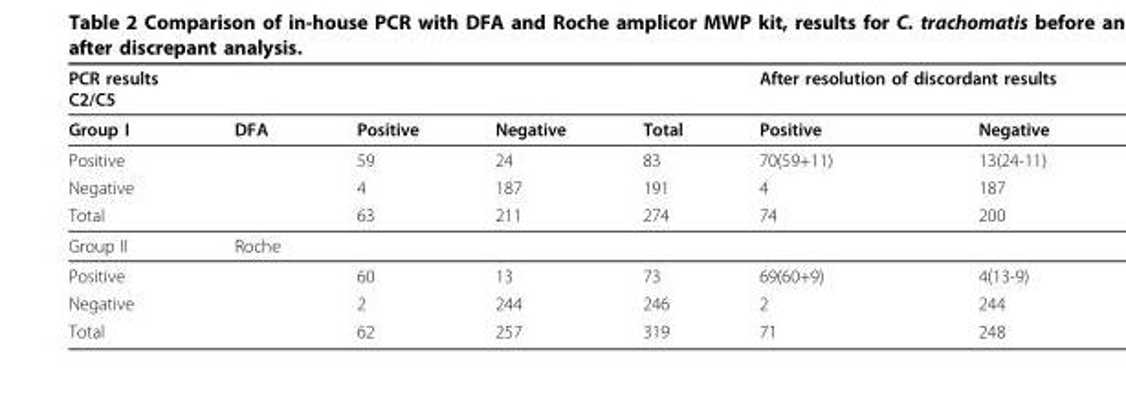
<table><thead><tr><td rowspan="2">PCR results C2/C5 Group I</td><td rowspan="2">DFA</td><td rowspan="2">Positive</td><td rowspan="2">Negative</td><td rowspan="2">Total</td><td colspan="2">After resolution of discordant results</td></tr><tr><td>Positive</td><td>Negative</td></tr></thead><tbody><tr><td>Positive</td><td></td><td>59</td><td>24</td><td>83</td><td>70(59+11)</td><td>13(24-11)</td></tr><tr><td>Negative</td><td></td><td>4</td><td>187</td><td>191</td><td>4</td><td>187</td></tr><tr><td>Total</td><td></td><td>63</td><td>211</td><td>274</td><td>74</td><td>200</td></tr><tr><td>Group II</td><td>Roche</td><td></td><td></td><td></td><td></td><td></td></tr><tr><td>Positive</td><td></td><td>60</td><td>13</td><td>73</td><td>69(60+9)</td><td>4(13-9)</td></tr><tr><td>Negative</td><td></td><td>2</td><td>244</td><td>246</td><td>2</td><td>244</td></tr><tr><td>Total</td><td></td><td>62</td><td>257</td><td>319</td><td>71</td><td>248</td></tr></tbody></table>